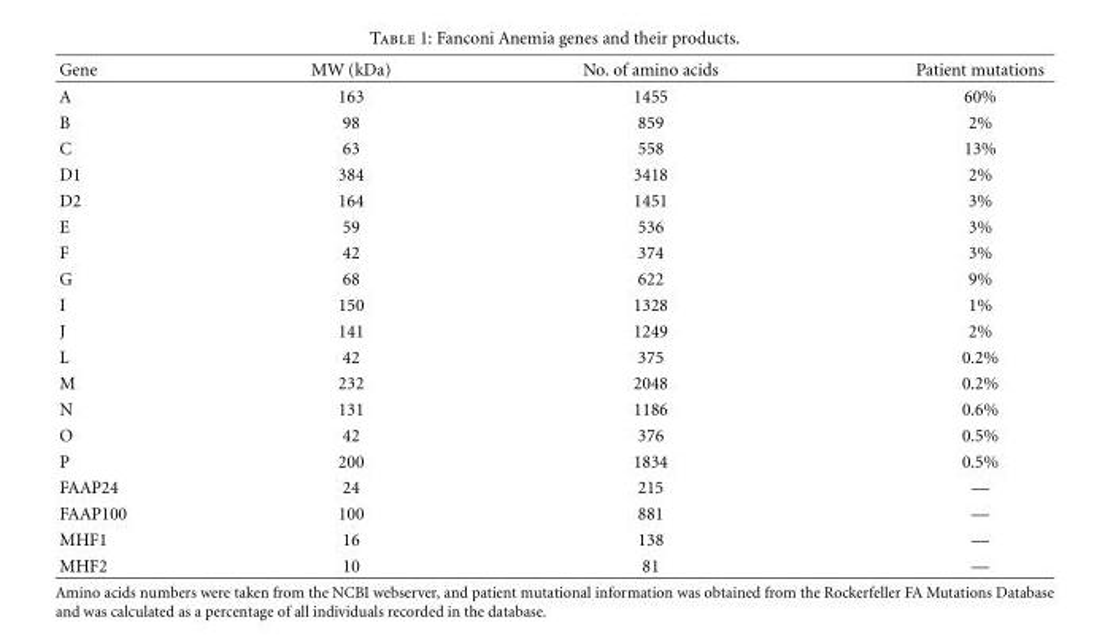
<table><thead><tr><td>Gene</td><td>MW (kDa)</td><td>No. of amino acids</td><td>Patient mutations</td></tr></thead><tbody><tr><td>A</td><td>163</td><td>1455</td><td>60%</td></tr><tr><td>B</td><td>98</td><td>859</td><td>2%</td></tr><tr><td>C</td><td>63</td><td>558</td><td>13%</td></tr><tr><td>D1</td><td>384</td><td>3418</td><td>2%</td></tr><tr><td>D2</td><td>164</td><td>1451</td><td>3%</td></tr><tr><td>E</td><td>59</td><td>536</td><td>3%</td></tr><tr><td>F</td><td>42</td><td>374</td><td>3%</td></tr><tr><td>G</td><td>68</td><td>622</td><td>9%</td></tr><tr><td>I</td><td>150</td><td>1328</td><td>1%</td></tr><tr><td>J</td><td>141</td><td>1249</td><td>2%</td></tr><tr><td>L</td><td>42</td><td>375</td><td>0.2%</td></tr><tr><td>M</td><td>232</td><td>2048</td><td>0.2%</td></tr><tr><td>N</td><td>131</td><td>1186</td><td>0.6%</td></tr><tr><td>O</td><td>42</td><td>376</td><td>0.5%</td></tr><tr><td>P</td><td>200</td><td>1834</td><td>0.5%</td></tr><tr><td>FAAP24</td><td>24</td><td>215</td><td>—</td></tr><tr><td>FAAP100</td><td>100</td><td>881</td><td>—</td></tr><tr><td>MHF1</td><td>16</td><td>138</td><td>—</td></tr><tr><td>MHF2</td><td>10</td><td>81</td><td>—</td></tr></tbody></table>